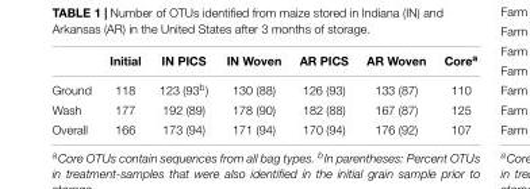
<table><thead><tr><td></td><td>Initial</td><td>IN PICS</td><td>IN Woven</td><td>AR PICS</td><td>AR Woven</td><td>Core<sup>a</sup></td></tr></thead><tbody><tr><td>Ground</td><td>118</td><td>123 (93<sup>b</sup>)</td><td>130 (88)</td><td>126 (93)</td><td>133 (87)</td><td>110</td></tr><tr><td>Wash</td><td>177</td><td>192 (89)</td><td>178 (90)</td><td>182 (88)</td><td>167 (87)</td><td>125</td></tr><tr><td>Overall</td><td>166</td><td>173 (94)</td><td>171 (94)</td><td>170 (94)</td><td>176 (92)</td><td>107</td></tr></tbody></table>